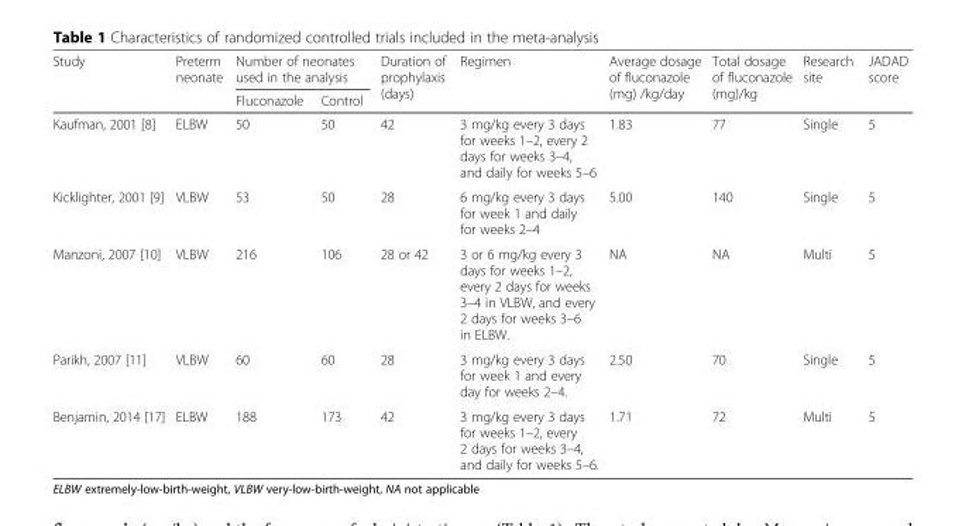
<table><thead><tr><td rowspan="2">Study</td><td rowspan="2">Preterm neonate</td><td colspan="2">Number of neonates used in the analysis</td><td rowspan="2">Duration of prophylaxis (days)</td><td rowspan="2">Regimen</td><td rowspan="2">Average dosage of fluconazole (mg) /kg/day</td><td rowspan="2">Total dosage of fluconazole (mg)/kg</td><td rowspan="2">Research site</td><td rowspan="2">JADAD score</td></tr><tr><td>Fluconazole</td><td>Control</td></tr></thead><tbody><tr><td>Kaufman, 2001 [8]</td><td>ELBW</td><td>50</td><td>50</td><td>42</td><td>3 mg/kg every 3 days for weeks 1–2, every 2 days for weeks 3–4, and daily for weeks 5–6</td><td>1.83</td><td>77</td><td>Single</td><td>5</td></tr><tr><td>Kicklighter, 2001 [9]</td><td>VLBW</td><td>53</td><td>50</td><td>28</td><td>6 mg/kg every 3 days for week 1 and daily for weeks 2–4</td><td>5.00</td><td>140</td><td>Single</td><td>5</td></tr><tr><td>Manzoni, 2007 [10]</td><td>VLBW</td><td>216</td><td>106</td><td>28 or 42</td><td>3 or 6 mg/kg every 3 days for weeks 1–2, every 2 days for weeks 3–4 in VLBW, and every 2 days for weeks 3–6 in ELBW.</td><td>NA</td><td>NA</td><td>Multi</td><td>5</td></tr><tr><td>Parikh, 2007 [11]</td><td>VLBW</td><td>60</td><td>60</td><td>28</td><td>3 mg/kg every 3 days for week 1 and every day for weeks 2–4.</td><td>2.50</td><td>70</td><td>Single</td><td>5</td></tr><tr><td>Benjamin, 2014 [17]</td><td>ELBW</td><td>188</td><td>173</td><td>42</td><td>3 mg/kg every 3 days for weeks 1–2, every 2 days for weeks 3–4, and daily for weeks 5–6.</td><td>1.71</td><td>72</td><td>Multi</td><td>5</td></tr></tbody></table>